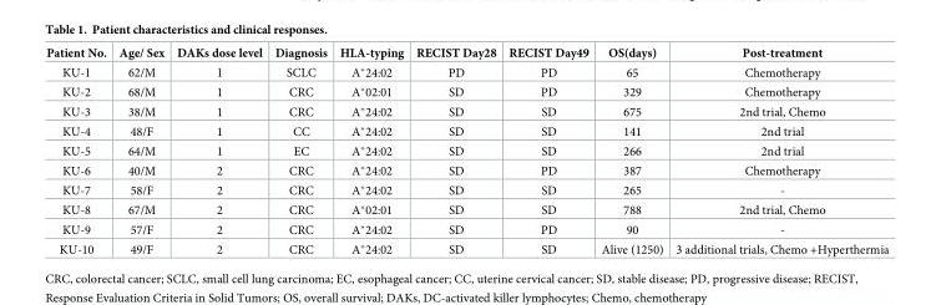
<table><thead><tr><td>Patient No.</td><td>Age/ Sex</td><td>DAKs dose level</td><td>Diagnosis</td><td>HLA-typing</td><td>RECIST Day28</td><td>RECIST Day49</td><td>OS(days)</td><td>Post-treatment</td></tr></thead><tbody><tr><td>KU-1</td><td>62/M</td><td>1</td><td>SCLC</td><td>A*24:02</td><td>PD</td><td>PD</td><td>65</td><td>Chemotherapy</td></tr><tr><td>KU-2</td><td>68/M</td><td>1</td><td>CRC</td><td>A*02:01</td><td>SD</td><td>PD</td><td>329</td><td>Chemotherapy</td></tr><tr><td>KU-3</td><td>38/M</td><td>1</td><td>CRC</td><td>A*24:02</td><td>SD</td><td>SD</td><td>675</td><td>2nd trial, Chemo</td></tr><tr><td>KU-4</td><td>48/F</td><td>1</td><td>CC</td><td>A*24:02</td><td>SD</td><td>SD</td><td>141</td><td>2nd trial</td></tr><tr><td>KU-5</td><td>64/M</td><td>1</td><td>EC</td><td>A*24:02</td><td>SD</td><td>SD</td><td>266</td><td>2nd trial</td></tr><tr><td>KU-6</td><td>40/M</td><td>2</td><td>CRC</td><td>A*24:02</td><td>SD</td><td>PD</td><td>387</td><td>Chemotherapy</td></tr><tr><td>KU-7</td><td>58/F</td><td>2</td><td>CRC</td><td>A*24:02</td><td>SD</td><td>SD</td><td>265</td><td>-</td></tr><tr><td>KU-8</td><td>67/M</td><td>2</td><td>CRC</td><td>A*02:01</td><td>SD</td><td>SD</td><td>788</td><td>2nd trial, Chemo</td></tr><tr><td>KU-9</td><td>57/F</td><td>2</td><td>CRC</td><td>A*24:02</td><td>SD</td><td>PD</td><td>90</td><td>-</td></tr><tr><td>KU-10</td><td>49/F</td><td>2</td><td>CRC</td><td>A*24:02</td><td>SD</td><td>SD</td><td>Alive (1250)</td><td>3 additional trials, Chemo +Hyperthermia</td></tr></tbody></table>